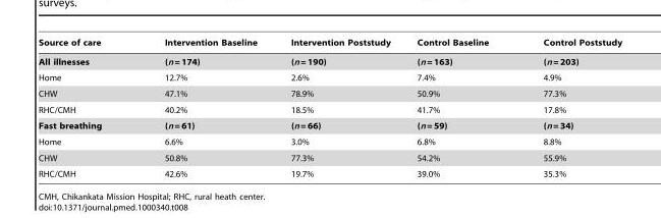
<table><thead><tr><td>Source of care</td><td>Intervention Baseline</td><td>Intervention Poststudy</td><td>Control Baseline</td><td>Control Poststudy</td></tr></thead><tbody><tr><td>All illnesses</td><td>(n = 174)</td><td>(n = 190)</td><td>(n = 163)</td><td>(n = 203)</td></tr><tr><td>Home</td><td>12.7%</td><td>2.6%</td><td>7.4%</td><td>4.9%</td></tr><tr><td>CHW</td><td>47.1%</td><td>78.9%</td><td>50.9%</td><td>77.3%</td></tr><tr><td>RHC/CMH</td><td>40.2%</td><td>18.5%</td><td>41.7%</td><td>17.8%</td></tr><tr><td>Fast breathing</td><td>(n = 61)</td><td>(n = 66)</td><td>(n = 59)</td><td>(n = 34)</td></tr><tr><td>Home</td><td>6.6%</td><td>3.0%</td><td>6.8%</td><td>8.8%</td></tr><tr><td>CHW</td><td>50.8%</td><td>77.3%</td><td>54.2%</td><td>55.9%</td></tr><tr><td>RHC/CMH</td><td>42.6%</td><td>19.7%</td><td>39.0%</td><td>35.3%</td></tr></tbody></table>